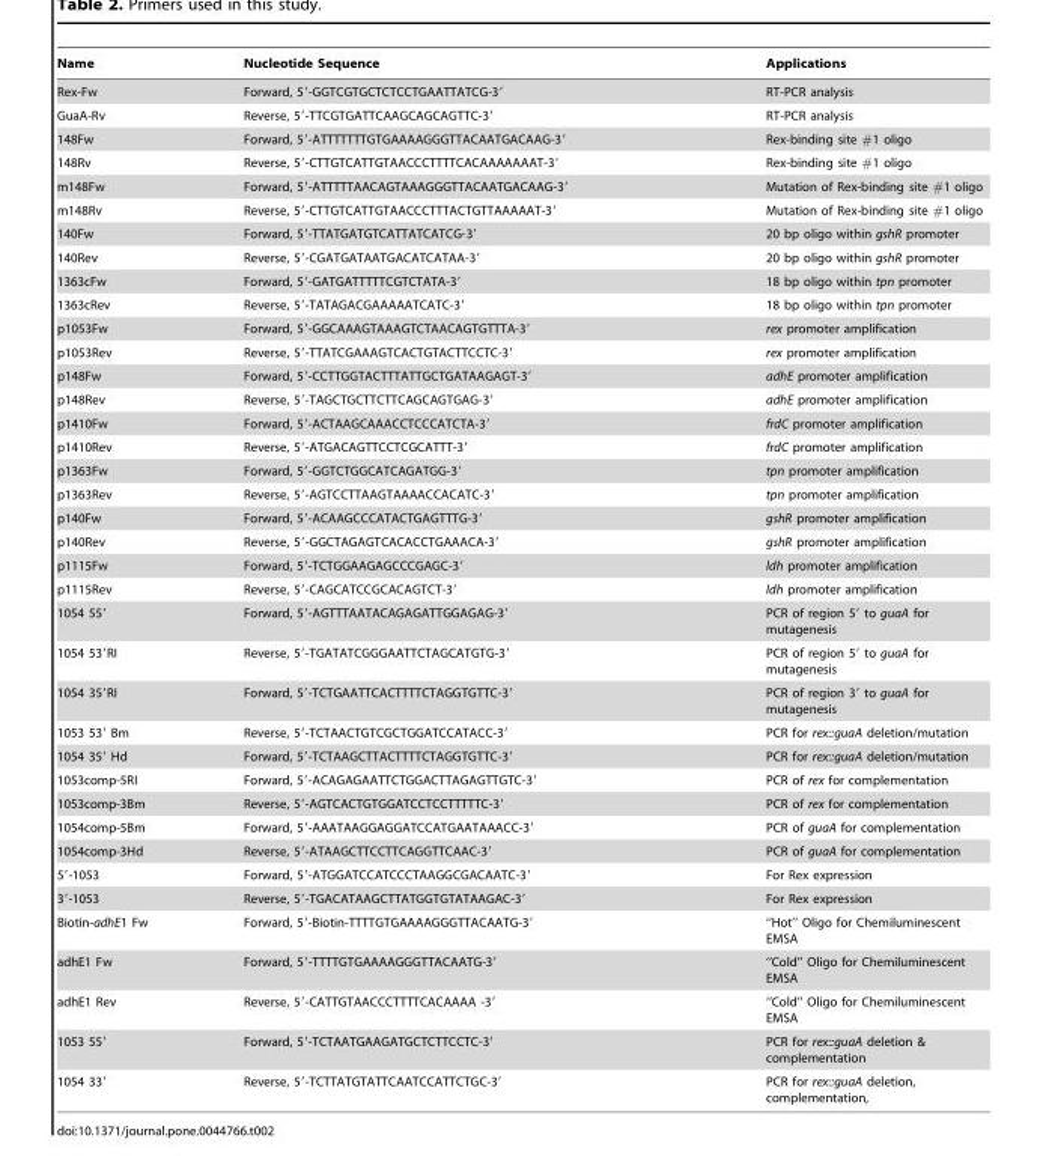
<table><thead><tr><td>Name</td><td>Nucleotide Sequence</td><td>Applications</td></tr></thead><tbody><tr><td>Rex-Fw</td><td>Forward, 5′-GGTCGTGCTCTCCTGAATTATCG-3′</td><td>RT-PCR analysis</td></tr><tr><td>GuaA-Rv</td><td>Reverse, 5′-TTCGTGATTCAAGCAGCAGTTC-3′</td><td>RT-PCR analysis</td></tr><tr><td>148Fw</td><td>Forward, 5′-ATTTTTTTGTGAAAAGGGTTACAATGACAAG-3′</td><td>Rex-binding site #1 oligo</td></tr><tr><td>148Rv</td><td>Reverse, 5′-CTTGTCATTGTAACCCTTTTCACAAAAAAAT-3′</td><td>Rex-binding site #1 oligo</td></tr><tr><td>m148Fw</td><td>Forward, 5′-ATTTTTAACAGTAAAGGGTTACAATGACAAG-3′</td><td>Mutation of Rex-binding site #1 oligo</td></tr><tr><td>m148Rv</td><td>Reverse, 5′-CTTGTCATTGTAACCCTTTACTGTTAAAAAT-3′</td><td>Mutation of Rex-binding site #1 oligo</td></tr><tr><td>140Fw</td><td>Forward, 5′-TTATGATGTCATTATCATCG-3′</td><td>20 bp oligo within gshR promoter</td></tr><tr><td>140Rev</td><td>Reverse, 5′-CGATGATAATGACATCATAA-3′</td><td>20 bp oligo within gshR promoter</td></tr><tr><td>1363cFw</td><td>Forward, 5′-GATGATTTTTCGTCTATA-3′</td><td>18 bp oligo within tpn promoter</td></tr><tr><td>1363cRev</td><td>Reverse, 5′-TATAGACGAAAAATCATC-3′</td><td>18 bp oligo within tpn promoter</td></tr><tr><td>p1053Fw</td><td>Forward, 5′-GGCAAAGTAAAGTCTAACAGTGTTTA-3′</td><td>rex promoter amplification</td></tr><tr><td>p1053Rev</td><td>Reverse, 5′-TTATCGAAAGTCACTGTACTTCCTC-3′</td><td>rex promoter amplification</td></tr><tr><td>p148Fw</td><td>Forward, 5′-CCTTGGTACTTTATTGCTGATAAGAGT-3′</td><td>adhE promoter amplification</td></tr><tr><td>p148Rev</td><td>Reverse, 5′-TAGCTGCTTCTTCAGCAGTGAG-3′</td><td>adhE promoter amplification</td></tr><tr><td>p1410Fw</td><td>Forward, 5′-ACTAAGCAAACCTCCCATCTA-3′</td><td>frdC promoter amplification</td></tr><tr><td>p1410Rev</td><td>Reverse, 5′-ATGACAGTTCCTCGCATTT-3′</td><td>frdC promoter amplification</td></tr><tr><td>p1363Fw</td><td>Forward, 5′-GGTCTGGCATCAGATGG-3′</td><td>tpn promoter amplification</td></tr><tr><td>p1363Rev</td><td>Reverse, 5′-AGTCCTTAAGTAAAACCACATC-3′</td><td>tpn promoter amplification</td></tr><tr><td>p140Fw</td><td>Forward, 5′-ACAAGCCCATACTGAGTTTG-3′</td><td>gshR promoter amplification</td></tr><tr><td>p140Rev</td><td>Reverse, 5′-GGCTAGAGTCACACCTGAAACA-3′</td><td>gshR promoter amplification</td></tr><tr><td>p1115Fw</td><td>Forward, 5′-TCTGGAAGAGCCCGAGC-3′</td><td>ldh promoter amplification</td></tr><tr><td>p1115Rev</td><td>Reverse, 5′-CAGCATCCGCACAGTCT-3′</td><td>ldh promoter amplification</td></tr><tr><td>1054 55′</td><td>Forward, 5′-AGTTTAATACAGAGATTGGAGAG-3′</td><td>PCR of region 5′ to guaA for mutagenesis</td></tr><tr><td>1054 53′RI</td><td>Reverse, 5′-TGATATCGGGAATTCTAGCATGTG-3′</td><td>PCR of region 5′ to guaA for mutagenesis</td></tr><tr><td>1054 35′RI</td><td>Forward, 5′-TCTGAATTCACTTTTCTAGGTGTTC-3′</td><td>PCR of region 3′ to guaA for mutagenesis</td></tr><tr><td>1053 53′ Bm</td><td>Reverse, 5′-TCTAACTGTCGCTGGATCCATACC-3′</td><td>PCR for rex::guaA deletion/mutation</td></tr><tr><td>1054 35′ Hd</td><td>Forward, 5′-TCTAAGCTTACTTTTCTAGGTGTTC-3′</td><td>PCR for rex::guaA deletion/mutation</td></tr><tr><td>1053comp-5RI</td><td>Forward, 5′-ACAGAGAATTCTGGACTTAGAGTTGTC-3′</td><td>PCR of rex for complementation</td></tr><tr><td>1053comp-3Bm</td><td>Reverse, 5′-AGTCACTGTGGATCCTCCTTTTTC-3′</td><td>PCR of rex for complementation</td></tr><tr><td>1054comp-5Bm</td><td>Forward, 5′-AAATAAGGAGGATCCATGAATAAACC-3′</td><td>PCR of guaA for complementation</td></tr><tr><td>1054comp-3Hd</td><td>Reverse, 5′-ATAAGCTTCCTTCAGGTTCAAC-3′</td><td>PCR of guaA for complementation</td></tr><tr><td>5′-1053</td><td>Forward, 5′-ATGGATCCATCCCTAAGGCGACAATC-3′</td><td>For Rex expression</td></tr><tr><td>3′-1053</td><td>Reverse, 5′-TGACATAAGCTTATGGTGTATAAGAC-3′</td><td>For Rex expression</td></tr><tr><td>Biotin-adhE1 Fw</td><td>Forward, 5′-Biotin-TTTTGTGAAAAGGGTTACAATG-3′</td><td>‘‘Hot’’ Oligo for Chemiluminescent EMSA</td></tr><tr><td>adhE1 Fw</td><td>Forward, 5′-TTTTGTGAAAAGGGTTACAATG-3′</td><td>‘‘Cold’’ Oligo for Chemiluminescent EMSA</td></tr><tr><td>adhE1 Rev</td><td>Reverse, 5′-CATTGTAACCCTTTTCACAAAA -3′</td><td>‘‘Cold’’ Oligo for Chemiluminescent EMSA</td></tr><tr><td>1053 55′</td><td>Forward, 5′-TCTAATGAAGATGCTCTTCCTC-3′</td><td>PCR for rex::guaA deletion &amp; complementation</td></tr><tr><td>1054 33′</td><td>Reverse, 5′-TCTTATGTATTCAATCCATTCTGC-3′</td><td>PCR for rex::guaA deletion, complementation,</td></tr></tbody></table>